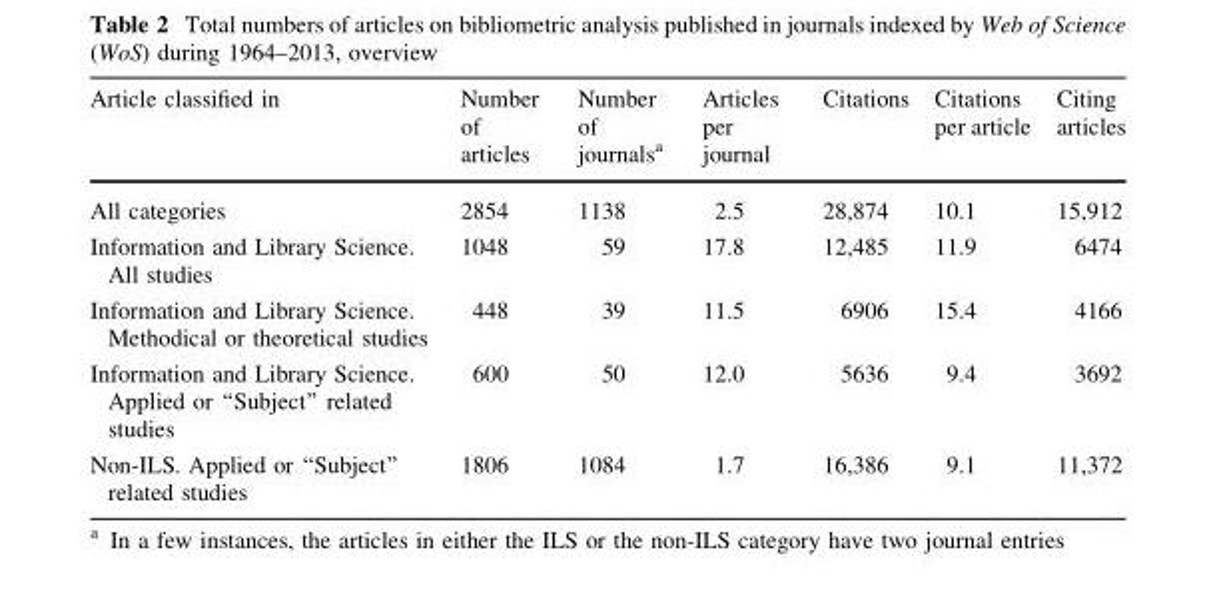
<table><thead><tr><td>Article classified in</td><td>Number of articles</td><td>Number of journals<sup>a</sup></td><td>Articles per journal</td><td>Citations</td><td>Citations per article</td><td>Citing articles</td></tr></thead><tbody><tr><td>All categories</td><td>2854</td><td>1138</td><td>2.5</td><td>28,874</td><td>10.1</td><td>15,912</td></tr><tr><td>Information and Library Science. All studies</td><td>1048</td><td>59</td><td>17.8</td><td>12,485</td><td>11.9</td><td>6474</td></tr><tr><td>Information and Library Science. Methodical or theoretical studies</td><td>448</td><td>39</td><td>11.5</td><td>6906</td><td>15.4</td><td>4166</td></tr><tr><td>Information and Library Science. Applied or ‘‘Subject’’ related studies</td><td>600</td><td>50</td><td>12.0</td><td>5636</td><td>9.4</td><td>3692</td></tr><tr><td>Non-ILS. Applied or ‘‘Subject’’ related studies</td><td>1806</td><td>1084</td><td>1.7</td><td>16,386</td><td>9.1</td><td>11,372</td></tr></tbody></table>